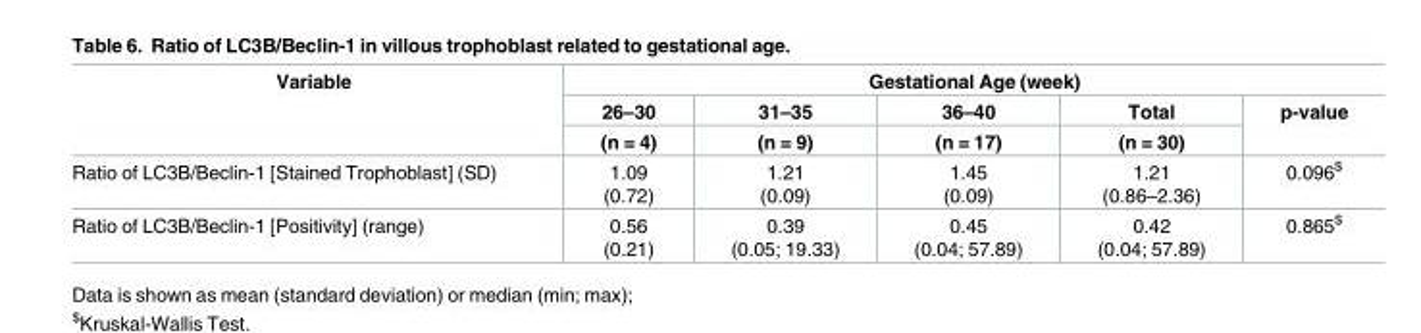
<table><thead><tr><td rowspan="3">Variable</td><td colspan="5">Gestational Age (week)</td></tr><tr><td rowspan="2">26–30 (n = 4)</td><td rowspan="2">31–35 (n = 9)</td><td rowspan="2">36–40 (n = 17)</td><td rowspan="2">Total (n = 30)</td><td rowspan="2">p-value</td></tr><tr></tr></thead><tbody><tr><td>Ratio of LC3B/Beclin-1 [Stained Trophoblast] (SD)</td><td>1.09 (0.72)</td><td>1.21 (0.09)</td><td>1.45 (0.09)</td><td>1.21 (0.86–2.36)</td><td>0.096<sup>$</sup></td></tr><tr><td>Ratio of LC3B/Beclin-1 [Positivity] (range)</td><td>0.56 (0.21)</td><td>0.39 (0.05; 19.33)</td><td>0.45 (0.04; 57.89)</td><td>0.42 (0.04; 57.89)</td><td>0.865<sup>$</sup></td></tr></tbody></table>